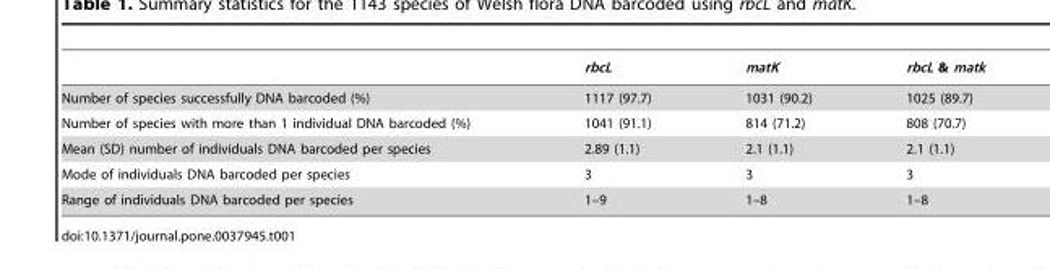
<table><thead><tr><td></td><td>rbcL</td><td>matK</td><td>rbcL &amp; matk</td></tr></thead><tbody><tr><td>Number of species successfully DNA barcoded (%)</td><td>1117 (97.7)</td><td>1031 (90.2)</td><td>1025 (89.7)</td></tr><tr><td>Number of species with more than 1 individual DNA barcoded (%)</td><td>1041 (91.1)</td><td>814 (71.2)</td><td>808 (70.7)</td></tr><tr><td>Mean (SD) number of individuals DNA barcoded per species</td><td>2.89 (1.1)</td><td>2.1 (1.1)</td><td>2.1 (1.1)</td></tr><tr><td>Mode of individuals DNA barcoded per species</td><td>3</td><td>3</td><td>3</td></tr><tr><td>Range of individuals DNA barcoded per species</td><td>1–9</td><td>1–8</td><td>1–8</td></tr></tbody></table>